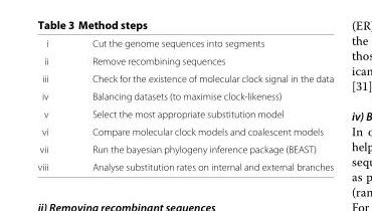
<table><tbody><tr><td>i</td><td>Cut the genome sequences into segments</td></tr><tr><td>ii</td><td>Remove recombining sequences</td></tr><tr><td>iii</td><td>Check for the existence of molecular clock signal in the data</td></tr><tr><td>iv</td><td>Balancing datasets (to maximise clock-likeness)</td></tr><tr><td>v</td><td>Select the most appropriate substitution model</td></tr><tr><td>vi</td><td>Compare molecular clock models and coalescent models</td></tr><tr><td>vii</td><td>Run the bayesian phylogeny inference package (BEAST)</td></tr><tr><td>viii</td><td>Analyse substitution rates on internal and external branches</td></tr></tbody></table>